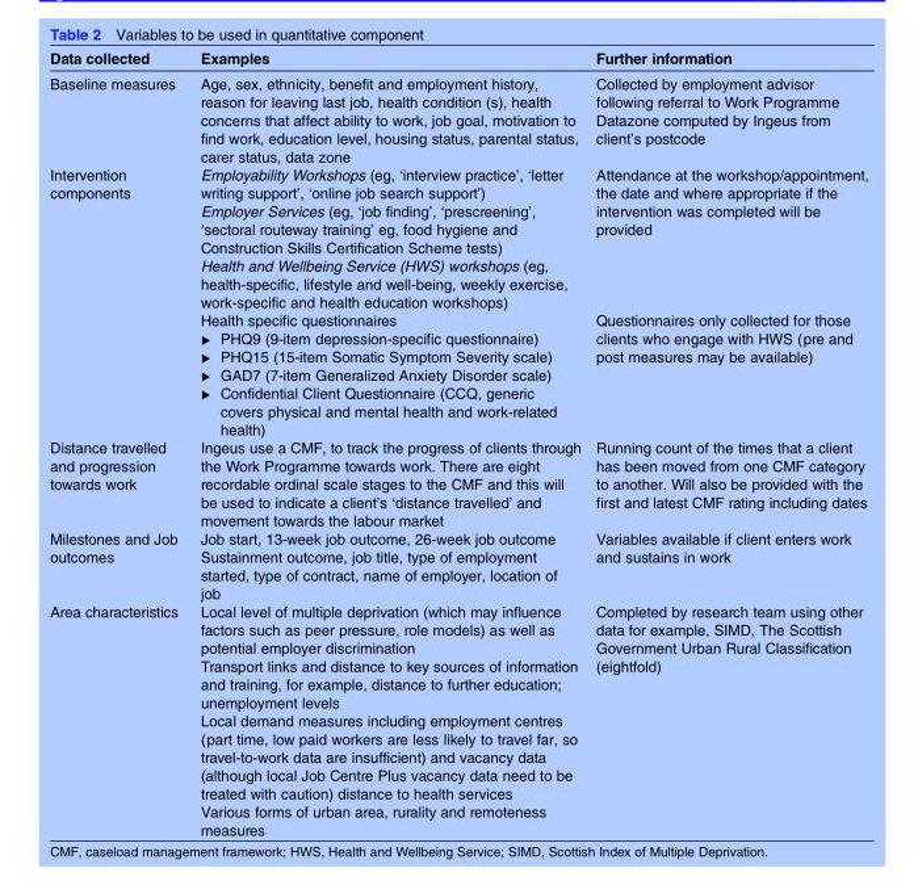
<table><thead><tr><td>Data collected</td><td>Examples</td><td>Further information</td></tr></thead><tbody><tr><td>Baseline measures</td><td>Age, sex, ethnicity, benefit and employment history, reason for leaving last job, health condition (s), health concerns that affect ability to work, job goal, motivation to find work, education level, housing status, parental status, carer status, data zone</td><td>Collected by employment advisor following referral to Work Programme Datazone computed by Ingeus from client’s postcode</td></tr><tr><td>Intervention components</td><td>Employability Workshops (eg, ‘interview practice’, ‘letter writing support’, ‘online job search support’) Employer Services (eg, ‘job finding’, ‘prescreening’, ‘sectoral routeway training’ eg, food hygiene and Construction Skills Certification Scheme tests) Health and Wellbeing Service (HWS) workshops (eg, health-specific, lifestyle and well-being, weekly exercise, work-specific and health education workshops) Health specific questionnaires ▸ PHQ9 (9-item depression-specific questionnaire) ▸ PHQ15 (15-item Somatic Symptom Severity scale) ▸ GAD7 (7-item Generalized Anxiety Disorder scale) ▸ Confidential Client Questionnaire (CCQ, generic covers physical and mental health and work-related health)</td><td>Attendance at the workshop/appointment, the date and where appropriate if the intervention was completed will be provided Questionnaires only collected for those clients who engage with HWS (pre and post measures may be available)</td></tr><tr><td>Distance travelled and progression towards work</td><td>Ingeus use a CMF, to track the progress of clients through the Work Programme towards work. There are eight recordable ordinal scale stages to the CMF and this will be used to indicate a client’s ‘distance travelled’ and movement towards the labour market</td><td>Running count of the times that a client has been moved from one CMF category to another. Will also be provided with the first and latest CMF rating including dates</td></tr><tr><td>Milestones and Job outcomes</td><td>Job start, 13-week job outcome, 26-week job outcome Sustainment outcome, job title, type of employment started, type of contract, name of employer, location of job</td><td>Variables available if client enters work and sustains in work</td></tr><tr><td>Area characteristics</td><td>Local level of multiple deprivation (which may influence factors such as peer pressure, role models) as well as potential employer discrimination Transport links and distance to key sources of information and training, for example, distance to further education; unemployment levels Local demand measures including employment centres (part time, low paid workers are less likely to travel far, so travel-to-work data are insufficient) and vacancy data (although local Job Centre Plus vacancy data need to be treated with caution) distance to health services Various forms of urban area, rurality and remoteness measures</td><td>Completed by research team using other data for example, SIMD, The Scottish Government Urban Rural Classification (eightfold)</td></tr></tbody></table>